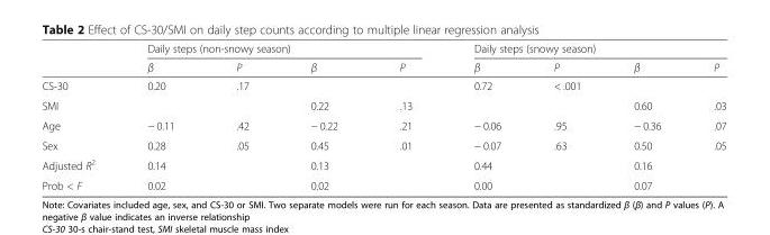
<table><thead><tr><td rowspan="2"></td><td colspan="4">Daily steps (non-snowy season)</td><td colspan="4">Daily steps (snowy season)</td></tr><tr><td>β</td><td>P</td><td>β</td><td>P</td><td>β</td><td>P</td><td>β</td><td>P</td></tr></thead><tbody><tr><td>CS-30</td><td>0.20</td><td>.17</td><td></td><td></td><td>0.72</td><td>&lt; .001</td><td></td><td></td></tr><tr><td>SMI</td><td></td><td></td><td>0.22</td><td>.13</td><td></td><td></td><td>0.60</td><td>.03</td></tr><tr><td>Age</td><td>− 0.11</td><td>.42</td><td>− 0.22</td><td>.21</td><td>− 0.06</td><td>.95</td><td>− 0.36</td><td>.07</td></tr><tr><td>Sex</td><td>0.28</td><td>.05</td><td>0.45</td><td>.01</td><td>− 0.07</td><td>.63</td><td>0.50</td><td>.05</td></tr><tr><td>Adjusted R<sup>2</sup></td><td colspan="2">0.14</td><td colspan="2">0.13</td><td colspan="2">0.44</td><td colspan="2">0.16</td></tr><tr><td>Prob &lt; F</td><td colspan="2">0.02</td><td colspan="2">0.02</td><td colspan="2">0.00</td><td colspan="2">0.07</td></tr></tbody></table>